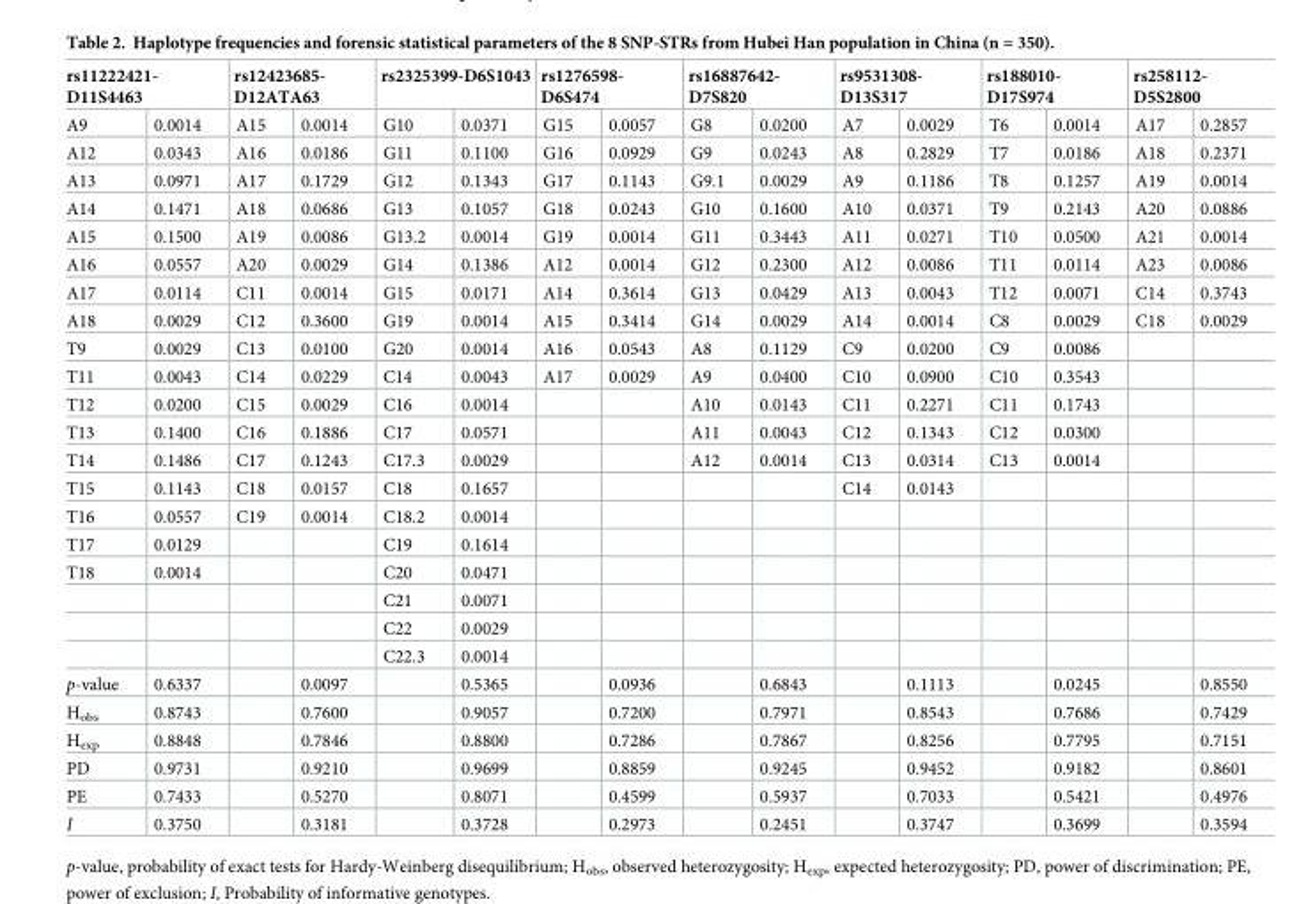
<table><thead><tr><td colspan="2">rs11222421- D11S4463</td><td colspan="2">rs12423685- D12ATA63</td><td colspan="2">rs2325399-D6S1043</td><td colspan="2">rs1276598- D6S474</td><td colspan="2">rs16887642- D7S820</td><td colspan="2">rs9531308- D13S317</td><td colspan="2">rs188010- D17S974</td><td colspan="2">rs258112- D5S2800</td></tr><tr><td>A9</td><td>0.0014</td><td>A15</td><td>0.0014</td><td>G10</td><td>0.0371</td><td>G15</td><td>0.0057</td><td>G8</td><td>0.0200</td><td>A7</td><td>0.0029</td><td>T6</td><td>0.0014</td><td>A17</td><td>0.2857</td></tr></thead><tbody><tr><td>A12</td><td>0.0343</td><td>A16</td><td>0.0186</td><td>G11</td><td>0.1100</td><td>G16</td><td>0.0929</td><td>G9</td><td>0.0243</td><td>A8</td><td>0.2829</td><td>T7</td><td>0.0186</td><td>A18</td><td>0.2371</td></tr><tr><td>A13</td><td>0.0971</td><td>A17</td><td>0.1729</td><td>G12</td><td>0.1343</td><td>G17</td><td>0.1143</td><td>G9.1</td><td>0.0029</td><td>A9</td><td>0.1186</td><td>T8</td><td>0.1257</td><td>A19</td><td>0.0014</td></tr><tr><td>A14</td><td>0.1471</td><td>A18</td><td>0.0686</td><td>G13</td><td>0.1057</td><td>G18</td><td>0.0243</td><td>G10</td><td>0.1600</td><td>A10</td><td>0.0371</td><td>T9</td><td>0.2143</td><td>A20</td><td>0.0886</td></tr><tr><td>A15</td><td>0.1500</td><td>A19</td><td>0.0086</td><td>G13.2</td><td>0.0014</td><td>G19</td><td>0.0014</td><td>G11</td><td>0.3443</td><td>A11</td><td>0.0271</td><td>T10</td><td>0.0500</td><td>A21</td><td>0.0014</td></tr><tr><td>A16</td><td>0.0557</td><td>A20</td><td>0.0029</td><td>G14</td><td>0.1386</td><td>A12</td><td>0.0014</td><td>G12</td><td>0.2300</td><td>A12</td><td>0.0086</td><td>T11</td><td>0.0114</td><td>A23</td><td>0.0086</td></tr><tr><td>A17</td><td>0.0114</td><td>C11</td><td>0.0014</td><td>G15</td><td>0.0171</td><td>A14</td><td>0.3614</td><td>G13</td><td>0.0429</td><td>A13</td><td>0.0043</td><td>T12</td><td>0.0071</td><td>C14</td><td>0.3743</td></tr><tr><td>A18</td><td>0.0029</td><td>C12</td><td>0.3600</td><td>G19</td><td>0.0014</td><td>A15</td><td>0.3414</td><td>G14</td><td>0.0029</td><td>A14</td><td>0.0014</td><td>C8</td><td>0.0029</td><td>C18</td><td>0.0029</td></tr><tr><td>T9</td><td>0.0029</td><td>C13</td><td>0.0100</td><td>G20</td><td>0.0014</td><td>A16</td><td>0.0543</td><td>A8</td><td>0.1129</td><td>C9</td><td>0.0200</td><td>C9</td><td>0.0086</td><td></td><td></td></tr><tr><td>T11</td><td>0.0043</td><td>C14</td><td>0.0229</td><td>C14</td><td>0.0043</td><td>A17</td><td>0.0029</td><td>A9</td><td>0.0400</td><td>C10</td><td>0.0900</td><td>C10</td><td>0.3543</td><td></td><td></td></tr><tr><td>T12</td><td>0.0200</td><td>C15</td><td>0.0029</td><td>C16</td><td>0.0014</td><td></td><td></td><td>A10</td><td>0.0143</td><td>C11</td><td>0.2271</td><td>C11</td><td>0.1743</td><td></td><td></td></tr><tr><td>T13</td><td>0.1400</td><td>C16</td><td>0.1886</td><td>C17</td><td>0.0571</td><td></td><td></td><td>A11</td><td>0.0043</td><td>C12</td><td>0.1343</td><td>C12</td><td>0.0300</td><td></td><td></td></tr><tr><td>T14</td><td>0.1486</td><td>C17</td><td>0.1243</td><td>C17.3</td><td>0.0029</td><td></td><td></td><td>A12</td><td>0.0014</td><td>C13</td><td>0.0314</td><td>C13</td><td>0.0014</td><td></td><td></td></tr><tr><td>T15</td><td>0.1143</td><td>C18</td><td>0.0157</td><td>C18</td><td>0.1657</td><td></td><td></td><td></td><td></td><td>C14</td><td>0.0143</td><td></td><td></td><td></td><td></td></tr><tr><td>T16</td><td>0.0557</td><td>C19</td><td>0.0014</td><td>C18.2</td><td>0.0014</td><td></td><td></td><td></td><td></td><td></td><td></td><td></td><td></td><td></td><td></td></tr><tr><td>T17</td><td>0.0129</td><td></td><td></td><td>C19</td><td>0.1614</td><td></td><td></td><td></td><td></td><td></td><td></td><td></td><td></td><td></td><td></td></tr><tr><td rowspan="4">T18</td><td>0.0014</td><td></td><td></td><td>C20</td><td>0.0471</td><td></td><td></td><td></td><td></td><td></td><td></td><td></td><td></td><td></td><td></td></tr><tr><td></td><td></td><td></td><td>C21</td><td>0.0071</td><td></td><td></td><td></td><td></td><td></td><td></td><td></td><td></td><td></td><td></td></tr><tr><td></td><td></td><td></td><td>C22</td><td>0.0029</td><td></td><td></td><td></td><td></td><td></td><td></td><td></td><td></td><td></td><td></td></tr><tr><td></td><td></td><td></td><td>C22.3</td><td>0.0014</td><td></td><td></td><td></td><td></td><td></td><td></td><td></td><td></td><td></td><td></td></tr><tr><td>p-value</td><td>0.6337</td><td></td><td>0.0097</td><td></td><td>0.5365</td><td></td><td>0.0936</td><td></td><td>0.6843</td><td></td><td>0.1113</td><td></td><td>0.0245</td><td></td><td>0.8550</td></tr><tr><td>H<sub>obs</sub></td><td>0.8743</td><td></td><td>0.7600</td><td></td><td>0.9057</td><td></td><td>0.7200</td><td></td><td>0.7971</td><td></td><td>0.8543</td><td></td><td>0.7686</td><td></td><td>0.7429</td></tr><tr><td>H<sub>exp</sub></td><td>0.8848</td><td></td><td>0.7846</td><td></td><td>0.8800</td><td></td><td>0.7286</td><td></td><td>0.7867</td><td></td><td>0.8256</td><td></td><td>0.7795</td><td></td><td>0.7151</td></tr><tr><td>PD</td><td>0.9731</td><td></td><td>0.9210</td><td></td><td>0.9699</td><td></td><td>0.8859</td><td></td><td>0.9245</td><td></td><td>0.9452</td><td></td><td>0.9182</td><td></td><td>0.8601</td></tr><tr><td>PE</td><td>0.7433</td><td></td><td>0.5270</td><td></td><td>0.8071</td><td></td><td>0.4599</td><td></td><td>0.5937</td><td></td><td>0.7033</td><td></td><td>0.5421</td><td></td><td>0.4976</td></tr><tr><td>I</td><td>0.3750</td><td></td><td>0.3181</td><td></td><td>0.3728</td><td></td><td>0.2973</td><td></td><td>0.2451</td><td></td><td>0.3747</td><td></td><td>0.3699</td><td></td><td>0.3594</td></tr></tbody></table>